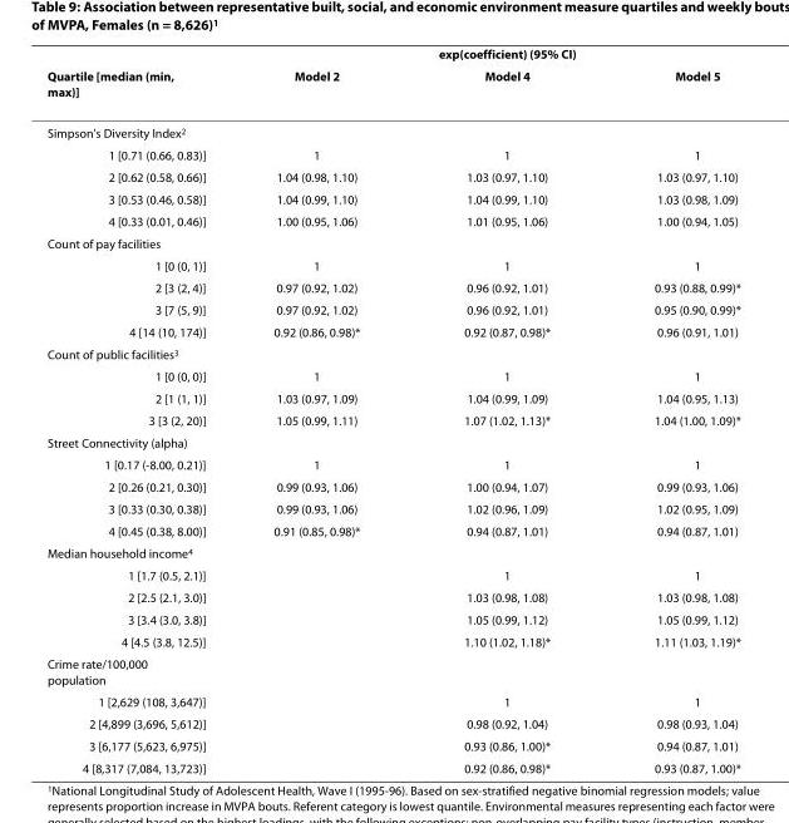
<table><thead><tr><td rowspan="2">Quartile [median (min, max)]</td><td colspan="3">exp(coefficient) (95% CI)</td></tr><tr><td>Model 2</td><td>Model 4</td><td>Model 5</td></tr></thead><tbody><tr><td colspan="4">Simpson&#x27;s Diversity Index<sup>2</sup></td></tr><tr><td>1 [0.71 (0.66, 0.83)]</td><td>1</td><td>1</td><td>1</td></tr><tr><td>2 [0.62 (0.58, 0.66)]</td><td>1.04 (0.98, 1.10)</td><td>1.03 (0.97, 1.10)</td><td>1.03 (0.97, 1.10)</td></tr><tr><td>3 [0.53 (0.46, 0.58)]</td><td>1.04 (0.99, 1.10)</td><td>1.04 (0.99, 1.10)</td><td>1.03 (0.98, 1.09)</td></tr><tr><td>4 [0.33 (0.01, 0.46)]</td><td>1.00 (0.95, 1.06)</td><td>1.01 (0.95, 1.06)</td><td>1.00 (0.94, 1.05)</td></tr><tr><td colspan="4">Count of pay facilities</td></tr><tr><td>1 [0 (0, 1)]</td><td>1</td><td>1</td><td>1</td></tr><tr><td>2 [3 (2, 4)]</td><td>0.97 (0.92, 1.02)</td><td>0.96 (0.92, 1.01)</td><td>0.93 (0.88, 0.99)*</td></tr><tr><td>3 [7 (5, 9)]</td><td>0.97 (0.92, 1.02)</td><td>0.96 (0.92, 1.01)</td><td>0.95 (0.90, 0.99)*</td></tr><tr><td>4 [14 (10, 174)]</td><td>0.92 (0.86, 0.98)*</td><td>0.92 (0.87, 0.98)*</td><td>0.96 (0.91, 1.01)</td></tr><tr><td colspan="4">Count of public facilities<sup>3</sup></td></tr><tr><td>1 [0 (0, 0)]</td><td>1</td><td>1</td><td>1</td></tr><tr><td>2 [1 (1, 1)]</td><td>1.03 (0.97, 1.09)</td><td>1.04 (0.99, 1.09)</td><td>1.04 (0.95, 1.13)</td></tr><tr><td>3 [3 (2, 20)]</td><td>1.05 (0.99, 1.11)</td><td>1.07 (1.02, 1.13)*</td><td>1.04 (1.00, 1.09)*</td></tr><tr><td colspan="4">Street Connectivity (alpha)</td></tr><tr><td>1 [0.17 (-8.00, 0.21)]</td><td>1</td><td>1</td><td>1</td></tr><tr><td>2 [0.26 (0.21, 0.30)]</td><td>0.99 (0.93, 1.06)</td><td>1.00 (0.94, 1.07)</td><td>0.99 (0.93, 1.06)</td></tr><tr><td>3 [0.33 (0.30, 0.38)]</td><td>0.99 (0.93, 1.06)</td><td>1.02 (0.96, 1.09)</td><td>1.02 (0.95, 1.09)</td></tr><tr><td>4 [0.45 (0.38, 8.00)]</td><td>0.91 (0.85, 0.98)*</td><td>0.94 (0.87, 1.01)</td><td>0.94 (0.87, 1.01)</td></tr><tr><td colspan="4">Median household income<sup>4</sup></td></tr><tr><td>1 [1.7 (0.5, 2.1)]</td><td></td><td>1</td><td>1</td></tr><tr><td>2 [2.5 (2.1, 3.0)]</td><td></td><td>1.03 (0.98, 1.08)</td><td>1.03 (0.98, 1.08)</td></tr><tr><td>3 [3.4 (3.0, 3.8)]</td><td></td><td>1.05 (0.99, 1.12)</td><td>1.05 (0.99, 1.12)</td></tr><tr><td>4 [4.5 (3.8, 12.5)]</td><td></td><td>1.10 (1.02, 1.18)*</td><td>1.11 (1.03, 1.19)*</td></tr><tr><td colspan="4">Crime rate/100,000 population</td></tr><tr><td>1 [2,629 (108, 3,647)]</td><td></td><td>1</td><td>1</td></tr><tr><td>2 [4,899 (3,696, 5,612)]</td><td></td><td>0.98 (0.92, 1.04)</td><td>0.98 (0.93, 1.04)</td></tr><tr><td>3 [6,177 (5,623, 6,975)]</td><td></td><td>0.93 (0.86, 1.00)*</td><td>0.94 (0.87, 1.01)</td></tr><tr><td>4 [8,317 (7,084, 13,723)]</td><td></td><td>0.92 (0.86, 0.98)*</td><td>0.93 (0.87, 1.00)*</td></tr></tbody></table>